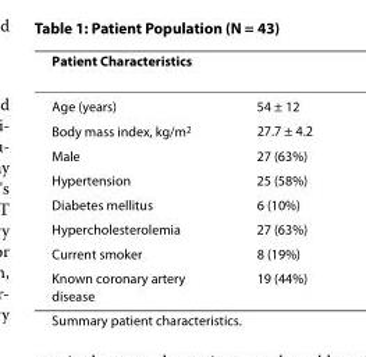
<table><thead><tr><td>Patient Characteristics</td><td></td></tr></thead><tbody><tr><td>Age (years)</td><td>54 ± 12</td></tr><tr><td>Body mass index, kg/m<sup>2</sup></td><td>27.7 ± 4.2</td></tr><tr><td>Male</td><td>27 (63%)</td></tr><tr><td>Hypertension</td><td>25 (58%)</td></tr><tr><td>Diabetes mellitus</td><td>6 (10%)</td></tr><tr><td>Hypercholesterolemia</td><td>27 (63%)</td></tr><tr><td>Current smoker</td><td>8 (19%)</td></tr><tr><td>Known coronary artery disease</td><td>19 (44%)</td></tr></tbody></table>